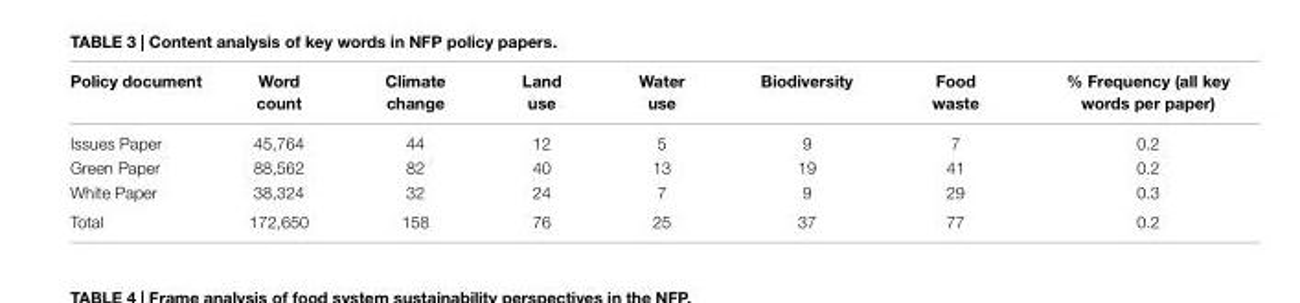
<table><thead><tr><td>Policy document</td><td>Word count</td><td>climate change</td><td>land use</td><td>Water use</td><td>Biodiversity</td><td>Food waste</td><td>% Frequency (all key words per paper)</td></tr></thead><tbody><tr><td>Issues Paper</td><td>45,764</td><td>44</td><td>12</td><td>5</td><td>9</td><td>7</td><td>0.2</td></tr><tr><td>Green Paper</td><td>88,562</td><td>82</td><td>40</td><td>13</td><td>19</td><td>41</td><td>0.2</td></tr><tr><td>White Paper</td><td>38,324</td><td>32</td><td>24</td><td>7</td><td>9</td><td>29</td><td>0.3</td></tr><tr><td>Total</td><td>172,650</td><td>158</td><td>76</td><td>25</td><td>37</td><td>77</td><td>0.2</td></tr></tbody></table>